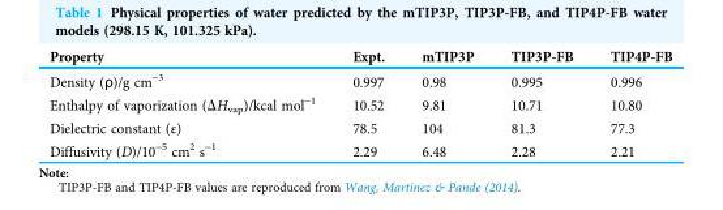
<table><thead><tr><td>Property</td><td>Expt.</td><td>mTIP3P</td><td>TIP3P-FB</td><td>TIP4P-FB</td></tr></thead><tbody><tr><td>Density (ρ)/g cm<sup>-3</sup></td><td>0.997</td><td>0.98</td><td>0.995</td><td>0.996</td></tr><tr><td>Enthalpy of vaporization (ΔH<sub>vap</sub>)/kcal mol<sup>-1</sup></td><td>10.52</td><td>9.81</td><td>10.71</td><td>10.80</td></tr><tr><td>Dielectric constant (ε)</td><td>78.5</td><td>104</td><td>81.3</td><td>77.3</td></tr><tr><td>Diffusivity (D)/10<sup>-5</sup> cm<sup>2</sup> s<sup>-1</sup></td><td>2.29</td><td>6.48</td><td>2.28</td><td>2.21</td></tr></tbody></table>